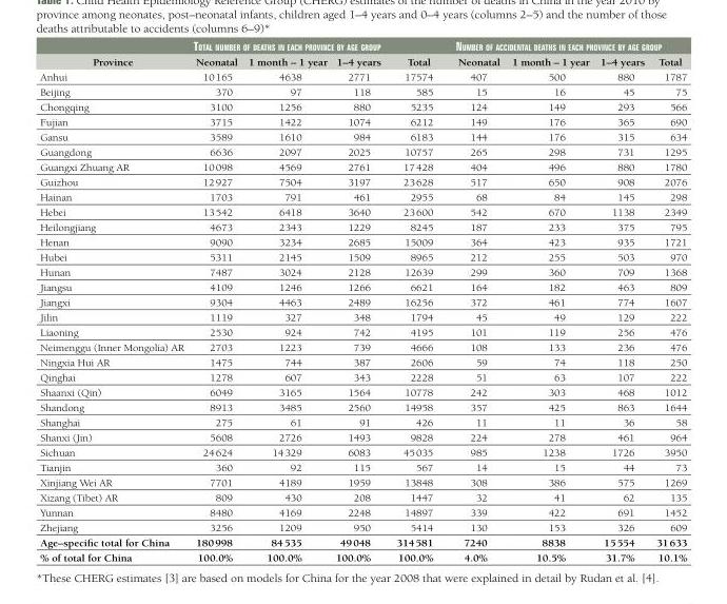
<table><thead><tr><td rowspan="2">Province</td><td colspan="4">ToTal number of deaThs in each province by age group</td><td colspan="4">number of accidenTal deaThs in each province by age group</td></tr><tr><td>Neonatal</td><td>1 month – 1 year</td><td>1–4 years</td><td>Total</td><td>Neonatal</td><td>1 month – 1 year</td><td>1–4 years</td><td>Total</td></tr></thead><tbody><tr><td>Anhui</td><td>10 165</td><td>4638</td><td>2771</td><td>17574</td><td>407</td><td>500</td><td>880</td><td>1787</td></tr><tr><td>Beijing</td><td>370</td><td>97</td><td>118</td><td>585</td><td>15</td><td>16</td><td>45</td><td>75</td></tr><tr><td>Chongqing</td><td>3100</td><td>1256</td><td>880</td><td>5235</td><td>124</td><td>149</td><td>293</td><td>566</td></tr><tr><td>Fujian</td><td>3715</td><td>1422</td><td>1074</td><td>6212</td><td>149</td><td>176</td><td>365</td><td>690</td></tr><tr><td>Gansu</td><td>3589</td><td>1610</td><td>984</td><td>6183</td><td>144</td><td>176</td><td>315</td><td>634</td></tr><tr><td>Guangdong</td><td>6636</td><td>2097</td><td>2025</td><td>10757</td><td>265</td><td>298</td><td>731</td><td>1295</td></tr><tr><td>Guangxi Zhuang AR</td><td>10 098</td><td>4569</td><td>2761</td><td>17 428</td><td>404</td><td>496</td><td>880</td><td>1780</td></tr><tr><td>Guizhou</td><td>12 927</td><td>7504</td><td>3197</td><td>23 628</td><td>517</td><td>650</td><td>908</td><td>2076</td></tr><tr><td>Hainan</td><td>1703</td><td>791</td><td>461</td><td>2955</td><td>68</td><td>84</td><td>145</td><td>298</td></tr><tr><td>Hebei</td><td>13 542</td><td>6418</td><td>3640</td><td>23 600</td><td>542</td><td>670</td><td>1138</td><td>2349</td></tr><tr><td>Heilongjiang</td><td>4673</td><td>2343</td><td>1229</td><td>8245</td><td>187</td><td>233</td><td>375</td><td>795</td></tr><tr><td>Henan</td><td>9090</td><td>3234</td><td>2685</td><td>15009</td><td>364</td><td>423</td><td>935</td><td>1721</td></tr><tr><td>Hubei</td><td>5311</td><td>2145</td><td>1509</td><td>8965</td><td>212</td><td>255</td><td>503</td><td>970</td></tr><tr><td>Hunan</td><td>7487</td><td>3024</td><td>2128</td><td>12639</td><td>299</td><td>360</td><td>709</td><td>1368</td></tr><tr><td>Jiangsu</td><td>4109</td><td>1246</td><td>1266</td><td>6621</td><td>164</td><td>182</td><td>463</td><td>809</td></tr><tr><td>Jiangxi</td><td>9304</td><td>4463</td><td>2489</td><td>16256</td><td>372</td><td>461</td><td>774</td><td>1607</td></tr><tr><td>Jilin</td><td>1119</td><td>327</td><td>348</td><td>1794</td><td>45</td><td>49</td><td>129</td><td>222</td></tr><tr><td>Liaoning</td><td>2530</td><td>924</td><td>742</td><td>4195</td><td>101</td><td>119</td><td>256</td><td>476</td></tr><tr><td>Neimenggu (Inner Mongolia) AR</td><td>2703</td><td>1223</td><td>739</td><td>4666</td><td>108</td><td>133</td><td>236</td><td>476</td></tr><tr><td>Ningxia Hui AR</td><td>1475</td><td>744</td><td>387</td><td>2606</td><td>59</td><td>74</td><td>118</td><td>250</td></tr><tr><td>Qinghai</td><td>1278</td><td>607</td><td>343</td><td>2228</td><td>51</td><td>63</td><td>107</td><td>222</td></tr><tr><td>Shaanxi (Qin)</td><td>6049</td><td>3165</td><td>1564</td><td>10778</td><td>242</td><td>303</td><td>468</td><td>1012</td></tr><tr><td>Shandong</td><td>8913</td><td>3485</td><td>2560</td><td>14958</td><td>357</td><td>425</td><td>863</td><td>1644</td></tr><tr><td>Shanghai</td><td>275</td><td>61</td><td>91</td><td>426</td><td>11</td><td>11</td><td>36</td><td>58</td></tr><tr><td>Shanxi (Jin)</td><td>5608</td><td>2726</td><td>1493</td><td>9828</td><td>224</td><td>278</td><td>461</td><td>964</td></tr><tr><td>Sichuan</td><td>24 624</td><td>14 329</td><td>6083</td><td>45 035</td><td>985</td><td>1238</td><td>1726</td><td>3950</td></tr><tr><td>Tianjin</td><td>360</td><td>92</td><td>115</td><td>567</td><td>14</td><td>15</td><td>44</td><td>73</td></tr><tr><td>Xinjiang Wei AR</td><td>7701</td><td>4189</td><td>1959</td><td>13848</td><td>308</td><td>386</td><td>575</td><td>1269</td></tr><tr><td>Xizang (Tibet) AR</td><td>809</td><td>430</td><td>208</td><td>1447</td><td>32</td><td>41</td><td>62</td><td>135</td></tr><tr><td>Yunnan</td><td>8480</td><td>4169</td><td>2248</td><td>14897</td><td>339</td><td>422</td><td>691</td><td>1452</td></tr><tr><td>Zhejiang</td><td>3256</td><td>1209</td><td>950</td><td>5414</td><td>130</td><td>153</td><td>326</td><td>609</td></tr><tr><td>Age–specific total for China</td><td>180 998</td><td>84 535</td><td>49 048</td><td>314 581</td><td>7240</td><td>8838</td><td>15 554</td><td>31 633</td></tr><tr><td>% of total for China</td><td>100.0%</td><td>100.0%</td><td>100.0%</td><td>100.0%</td><td>4.0%</td><td>10.5%</td><td>31.7%</td><td>10.1%</td></tr></tbody></table>